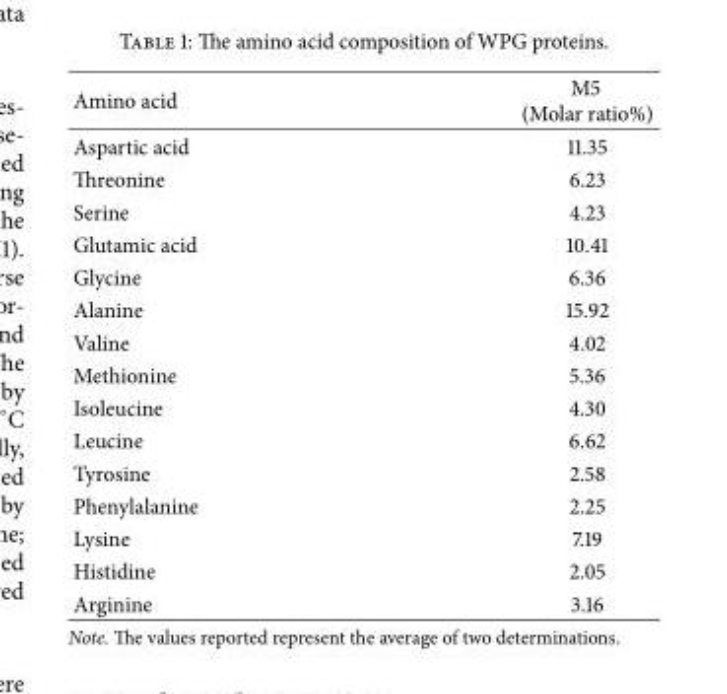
<table><thead><tr><td>Amino acid</td><td>M5 (Molar ratio%)</td></tr></thead><tbody><tr><td>Aspartic acid</td><td>11.35</td></tr><tr><td>Threonine</td><td>6.23</td></tr><tr><td>Serine</td><td>4.23</td></tr><tr><td>Glutamic acid</td><td>10.41</td></tr><tr><td>Glycine</td><td>6.36</td></tr><tr><td>Alanine</td><td>15.92</td></tr><tr><td>Valine</td><td>4.02</td></tr><tr><td>Methionine</td><td>5.36</td></tr><tr><td>Isoleucine</td><td>4.30</td></tr><tr><td>Leucine</td><td>6.62</td></tr><tr><td>Tyrosine</td><td>2.58</td></tr><tr><td>Phenylalanine</td><td>2.25</td></tr><tr><td>Lysine</td><td>7.19</td></tr><tr><td>Histidine</td><td>2.05</td></tr><tr><td>Arginine</td><td>3.16</td></tr></tbody></table>